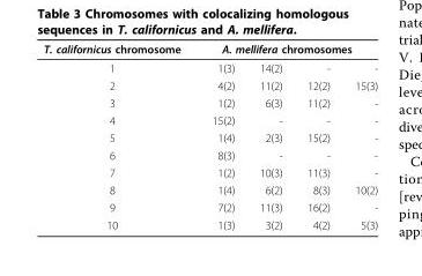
<table><thead><tr><td rowspan="2">T. californicus chromosome 1</td><td colspan="4">A. mellifera chromosomes</td></tr><tr><td>1(3)</td><td>14(2)</td><td>-</td><td>-</td></tr></thead><tbody><tr><td>2</td><td>4(2)</td><td>11(2)</td><td>12(2)</td><td>15(3)</td></tr><tr><td>3</td><td>1(2)</td><td>6(3)</td><td>11(2)</td><td>-</td></tr><tr><td>4</td><td>15(2)</td><td>-</td><td>-</td><td>-</td></tr><tr><td>5</td><td>1(4)</td><td>2(3)</td><td>15(2)</td><td>-</td></tr><tr><td>6</td><td>8(3)</td><td>-</td><td>-</td><td>-</td></tr><tr><td>7</td><td>1(2)</td><td>10(3)</td><td>11(3)</td><td>-</td></tr><tr><td>8</td><td>1(4)</td><td>6(2)</td><td>8(3)</td><td>10(2)</td></tr><tr><td>9</td><td>7(2)</td><td>11(3)</td><td>16(2)</td><td>-</td></tr><tr><td>10</td><td>1(3)</td><td>3(2)</td><td>4(2)</td><td>5(3)</td></tr></tbody></table>